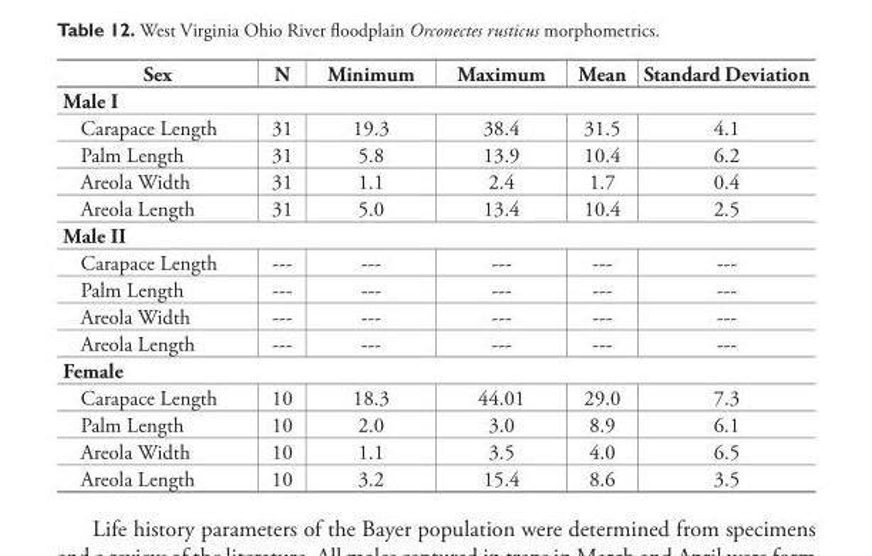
<table><thead><tr><td>Sex</td><td>N</td><td>Minimum</td><td>Maximum</td><td>Mean</td><td>Standard Deviation</td></tr></thead><tbody><tr><td colspan="6">Male I</td></tr><tr><td>Carapace Length</td><td>31</td><td>19.3</td><td>38.4</td><td>31.5</td><td>4.1</td></tr><tr><td>Palm Length</td><td>31</td><td>5.8</td><td>13.9</td><td>10.4</td><td>6.2</td></tr><tr><td>Areola Width</td><td>31</td><td>1.1</td><td>2.4</td><td>1.7</td><td>0.4</td></tr><tr><td>Areola Length</td><td>31</td><td>5.0</td><td>13.4</td><td>10.4</td><td>2.5</td></tr><tr><td colspan="6">Male II</td></tr><tr><td>Carapace Length</td><td>---</td><td>---</td><td>---</td><td>---</td><td>---</td></tr><tr><td>Palm Length</td><td>---</td><td>---</td><td>---</td><td>---</td><td>---</td></tr><tr><td>Areola Width</td><td>---</td><td>---</td><td>---</td><td>---</td><td>---</td></tr><tr><td>Areola Length</td><td>---</td><td>---</td><td>---</td><td>---</td><td>---</td></tr><tr><td colspan="6">Female</td></tr><tr><td>Carapace Length</td><td>10</td><td>18.3</td><td>44.01</td><td>29.0</td><td>7.3</td></tr><tr><td>Palm Length</td><td>10</td><td>2.0</td><td>3.0</td><td>8.9</td><td>6.1</td></tr><tr><td>Areola Width</td><td>10</td><td>1.1</td><td>3.5</td><td>4.0</td><td>6.5</td></tr><tr><td>Areola Length</td><td>10</td><td>3.2</td><td>15.4</td><td>8.6</td><td>3.5</td></tr></tbody></table>